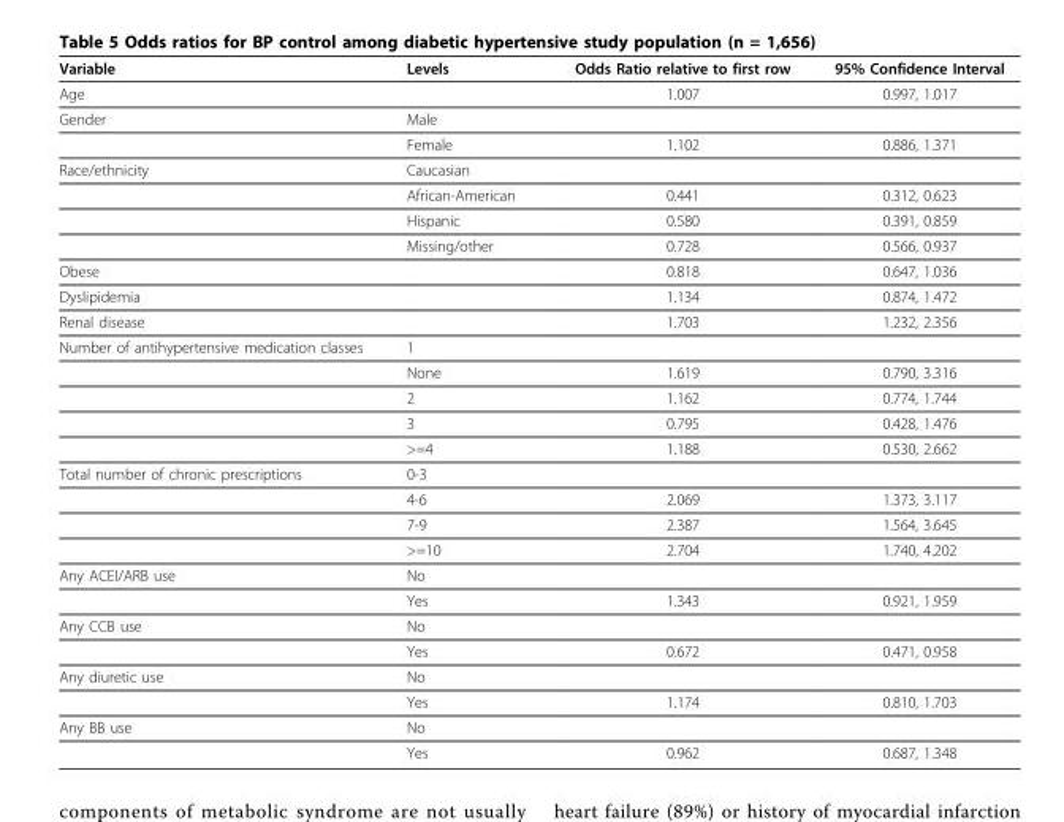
<table><thead><tr><td>Variable</td><td>Levels</td><td>Odds Ratio relative to first row</td><td>95% Confidence Interval</td></tr></thead><tbody><tr><td>Age</td><td></td><td>1.007</td><td>0.997, 1.017</td></tr><tr><td rowspan="2">Gender</td><td>Male</td><td></td><td></td></tr><tr><td>Female</td><td>1.102</td><td>0.886, 1.371</td></tr><tr><td rowspan="4">Race/ethnicity</td><td>Caucasian</td><td></td><td></td></tr><tr><td>African-American</td><td>0.441</td><td>0.312, 0.623</td></tr><tr><td>Hispanic</td><td>0.580</td><td>0.391, 0.859</td></tr><tr><td>Missing/other</td><td>0.728</td><td>0.566, 0.937</td></tr><tr><td>Obese</td><td></td><td>0.818</td><td>0.647, 1.036</td></tr><tr><td>Dyslipidemia</td><td></td><td>1.134</td><td>0.874, 1.472</td></tr><tr><td>Renal disease</td><td></td><td>1.703</td><td>1.232, 2.356</td></tr><tr><td rowspan="5">Number of antihypertensive medication classes</td><td>1</td><td></td><td></td></tr><tr><td>None</td><td>1.619</td><td>0.790, 3.316</td></tr><tr><td>2</td><td>1.162</td><td>0.774, 1.744</td></tr><tr><td>3</td><td>0.795</td><td>0.428, 1.476</td></tr><tr><td>&gt;=4</td><td>1.188</td><td>0.530, 2.662</td></tr><tr><td rowspan="4">Total number of chronic prescriptions</td><td>0-3</td><td></td><td></td></tr><tr><td>4-6</td><td>2.069</td><td>1.373, 3.117</td></tr><tr><td>7-9</td><td>2.387</td><td>1.564, 3.645</td></tr><tr><td>&gt;=10</td><td>2.704</td><td>1.740, 4.202</td></tr><tr><td rowspan="2">Any ACEI/ARB use</td><td>No</td><td></td><td></td></tr><tr><td>Yes</td><td>1.343</td><td>0.921, 1.959</td></tr><tr><td rowspan="2">Any CCB use</td><td>No</td><td></td><td></td></tr><tr><td>Yes</td><td>0.672</td><td>0.471, 0.958</td></tr><tr><td rowspan="2">Any diuretic use</td><td>No</td><td></td><td></td></tr><tr><td>Yes</td><td>1.174</td><td>0.810, 1.703</td></tr><tr><td rowspan="2">Any BB use</td><td>No</td><td></td><td></td></tr><tr><td>Yes</td><td>0.962</td><td>0.687, 1.348</td></tr></tbody></table>